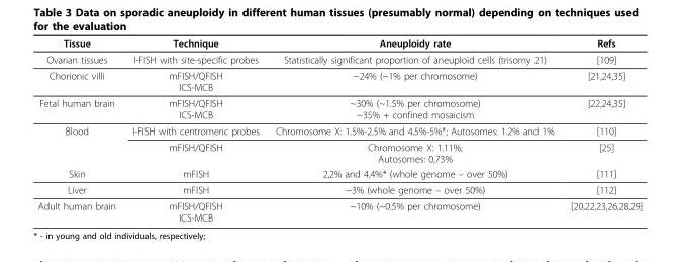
<table><thead><tr><td>Tissue</td><td>Technique</td><td>Aneuploidy rate</td><td>Refs</td></tr></thead><tbody><tr><td>Ovarian tissues</td><td>I-FISH with site-specific probes</td><td>Statistically significant proportion of aneuploid cells (trisomy 21)</td><td>[109]</td></tr><tr><td>Chorionic villi</td><td>mFISH/QFISH ICS-MCB</td><td>~24% (~1% per chromosome)</td><td>[21,24,35]</td></tr><tr><td>Fetal human brain</td><td>mFISH/QFISH ICS-MCB</td><td>~30% (~1.5% per chromosome) ~35% + confined mosaicism</td><td>[22,24,35]</td></tr><tr><td rowspan="2">Blood</td><td>I-FISH with centromeric probes</td><td>Chromosome X: 1.5%-2.5% and 4.5%-5%*; Autosomes: 1.2% and 1%</td><td>[110]</td></tr><tr><td>mFISH/QFISH</td><td>Chromosome X: 1.11%; Autosomes: 0,73%</td><td>[25]</td></tr><tr><td>Skin</td><td>mFISH</td><td>2,2% and 4,4%* (whole genome – over 50%)</td><td>[111]</td></tr><tr><td>Liver</td><td>mFISH</td><td>~3% (whole genome – over 50%)</td><td>[112]</td></tr><tr><td>Adult human brain</td><td>mFISH/QFISH ICS-MCB</td><td>~10% (~0.5% per chromosome)</td><td>[20,22,23,26,28,29]</td></tr></tbody></table>